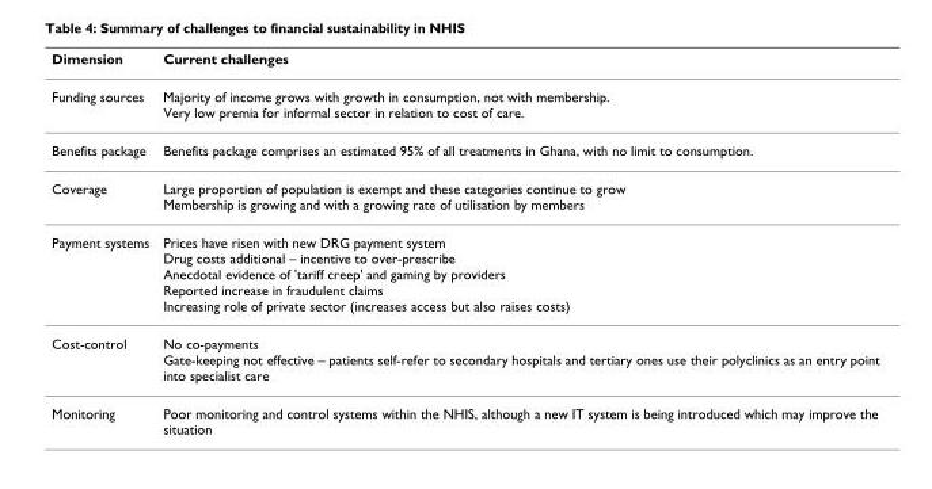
<table><thead><tr><td>Dimension</td><td>Current challenges</td></tr></thead><tbody><tr><td>Funding sources</td><td>Majority of income grows with growth in consumption, not with membership. Very low premia for informal sector in relation to cost of care.</td></tr><tr><td>Benefits package</td><td>Benefits package comprises an estimated 95% of all treatments in Ghana, with no limit to consumption.</td></tr><tr><td>Coverage</td><td>Large proportion of population is exempt and these categories continue to grow Membership is growing and with a growing rate of utilisation by members</td></tr><tr><td>Payment systems</td><td>Prices have risen with new DRG payment system Drug costs additional – incentive to over-prescribe Anecdotal evidence of &#x27;tariff creep&#x27; and gaming by providers Reported increase in fraudulent claims Increasing role of private sector (increases access but also raises costs)</td></tr><tr><td>Cost-control</td><td>No co-payments Gate-keeping not effective – patients self-refer to secondary hospitals and tertiary ones use their polyclinics as an entry point into specialist care</td></tr><tr><td>Monitoring</td><td>Poor monitoring and control systems within the NHIS, although a new IT system is being introduced which may improve the situation</td></tr></tbody></table>